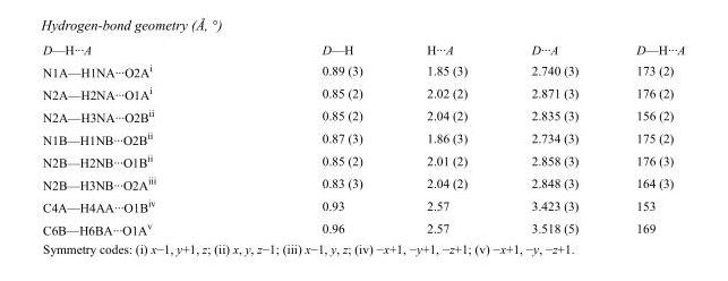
<table><tbody><tr><td>D—H···A</td><td>D—H</td><td>H···A</td><td>D···A</td><td>D—H···A</td></tr><tr><td>N1A—H1NA···O2A<sup>i</sup></td><td>0.89 (3)</td><td>1.85 (3)</td><td>2.740 (3)</td><td>173 (2)</td></tr><tr><td>N2A—H2NA···O1A<sup>i</sup></td><td>0.85 (2)</td><td>2.02 (2)</td><td>2.871 (3)</td><td>176 (2)</td></tr><tr><td>N2A—H3NA···O2B<sup>ii</sup></td><td>0.85 (2)</td><td>2.04 (2)</td><td>2.835 (3)</td><td>156 (2)</td></tr><tr><td>N1B—H1NB···O2B<sup>ii</sup></td><td>0.87 (3)</td><td>1.86 (3)</td><td>2.734 (3)</td><td>175 (2)</td></tr><tr><td>N2B—H2NB···O1B<sup>ii</sup></td><td>0.85 (2)</td><td>2.01 (2)</td><td>2.858 (3)</td><td>176 (3)</td></tr><tr><td>N2B—H3NB···O2A<sup>iii</sup></td><td>0.83 (3)</td><td>2.04 (2)</td><td>2.848 (3)</td><td>164 (3)</td></tr><tr><td>C4A—H4AA···O1B<sup>iv</sup></td><td>0.93</td><td>2.57</td><td>3.423 (3)</td><td>153</td></tr><tr><td>C6B—H6BA···O1A<sup>v</sup></td><td>0.96</td><td>2.57</td><td>3.518 (5)</td><td>169</td></tr></tbody></table>